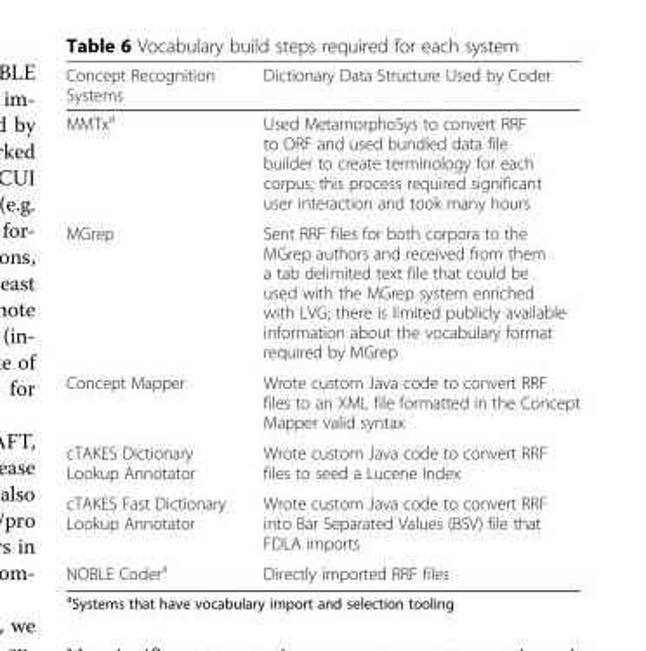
<table><thead><tr><td>Concept Recognition Systems</td><td>Dictionary Data Structure Used by Coder</td></tr></thead><tbody><tr><td>MMTx<sup>a</sup></td><td>Used MetamorphoSys to convert RRF to ORF and used bundled data file builder to create terminology for each corpus; this process required significant user interaction and took many hours</td></tr><tr><td>MGrep</td><td>Sent RRF files for both corpora to the MGrep authors and received from them a tab delimited text file that could be used with the MGrep system enriched with LVG; there is limited publicly available information about the vocabulary format required by MGrep</td></tr><tr><td>Concept Mapper</td><td>Wrote custom Java code to convert RRF files to an XML file formatted in the Concept Mapper valid syntax</td></tr><tr><td>cTAKES Dictionary Lookup Annotator</td><td>Wrote custom Java code to convert RRF files to seed a Lucene Index</td></tr><tr><td>cTAKES Fast Dictionary Lookup Annotator</td><td>Wrote custom Java code to convert RRF into Bar Separated Values (BSV) file that FDLA imports</td></tr><tr><td>NOBLE Coder<sup>a</sup></td><td>Directly imported RRF files</td></tr></tbody></table>